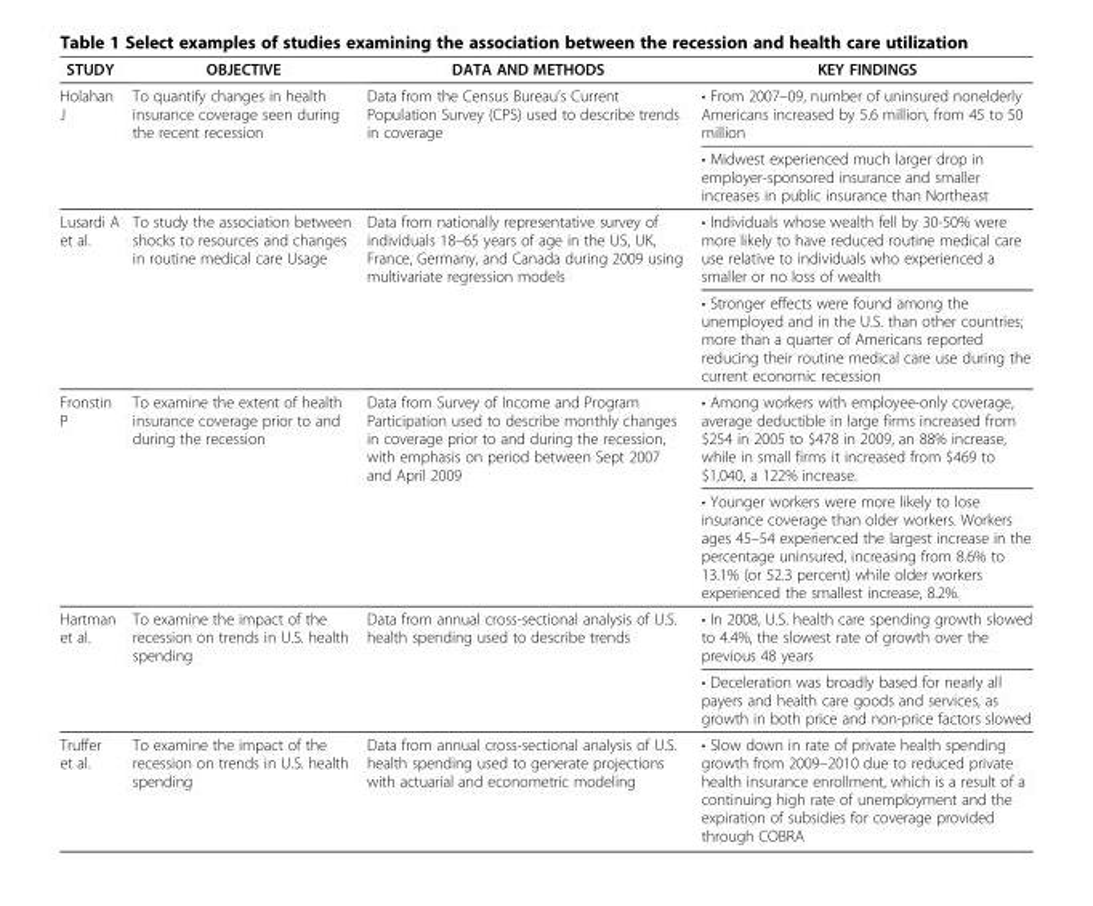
<table><thead><tr><td>STUDY</td><td>OBJECTIVE</td><td>DATA AND METHODS</td><td>KEY FINDINGS</td></tr></thead><tbody><tr><td rowspan="2">Holahan J</td><td rowspan="2">To quantify changes in health insurance coverage seen during the recent recession</td><td rowspan="2">Data from the Census Bureau’s Current Population Survey (CPS) used to describe trends in coverage</td><td>• From 2007–09, number of uninsured nonelderly Americans increased by 5.6 million, from 45 to 50 million</td></tr><tr><td>• Midwest experienced much larger drop in employer-sponsored insurance and smaller increases in public insurance than Northeast</td></tr><tr><td rowspan="2">Lusardi A et al.</td><td rowspan="2">To study the association between shocks to resources and changes in routine medical care Usage</td><td rowspan="2">Data from nationally representative survey of individuals 18–65 years of age in the US, UK, France, Germany, and Canada during 2009 using multivariate regression models</td><td>• Individuals whose wealth fell by 30-50% were more likely to have reduced routine medical care use relative to individuals who experienced a smaller or no loss of wealth</td></tr><tr><td>• Stronger effects were found among the unemployed and in the U.S. than other countries; more than a quarter of Americans reported reducing their routine medical care use during the current economic recession</td></tr><tr><td rowspan="2">Fronstin P</td><td rowspan="2">To examine the extent of health insurance coverage prior to and during the recession</td><td rowspan="2">Data from Survey of Income and Program Participation used to describe monthly changes in coverage prior to and during the recession, with emphasis on period between Sept 2007 and April 2009</td><td>• Among workers with employee-only coverage, average deductible in large firms increased from $254 in 2005 to $478 in 2009, an 88% increase, while in small firms it increased from $469 to $1,040, a 122% increase.</td></tr><tr><td>• Younger workers were more likely to lose insurance coverage than older workers. Workers ages 45–54 experienced the largest increase in the percentage uninsured, increasing from 8.6% to 13.1% (or 52.3 percent) while older workers experienced the smallest increase, 8.2%.</td></tr><tr><td rowspan="2">Hartman et al.</td><td rowspan="2">To examine the impact of the recession on trends in U.S. health spending</td><td rowspan="2">Data from annual cross-sectional analysis of U.S. health spending used to describe trends</td><td>• In 2008, U.S. health care spending growth slowed to 4.4%, the slowest rate of growth over the previous 48 years</td></tr><tr><td>• Deceleration was broadly based for nearly all payers and health care goods and services, as growth in both price and non-price factors slowed</td></tr><tr><td>Truffer et al.</td><td>To examine the impact of the recession on trends in U.S. health spending</td><td>Data from annual cross-sectional analysis of U.S. health spending used to generate projections with actuarial and econometric modeling</td><td>• Slow down in rate of private health spending growth from 2009–2010 due to reduced private health insurance enrollment, which is a result of a continuing high rate of unemployment and the expiration of subsidies for coverage provided through COBRA</td></tr></tbody></table>